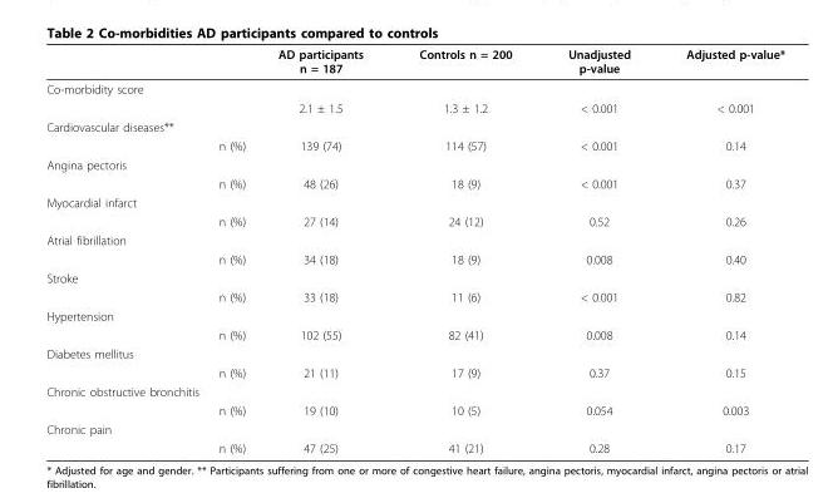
<table><thead><tr><td></td><td>AD participants n = 187</td><td>Controls n = 200</td><td>Unadjusted p-value</td><td>Adjusted p-value*</td></tr></thead><tbody><tr><td colspan="5">Co-morbidity score</td></tr><tr><td></td><td>2.1 ± 1.5</td><td>1.3 ± 1.2</td><td>&lt; 0.001</td><td>&lt; 0.001</td></tr><tr><td colspan="5">Cardiovascular diseases**</td></tr><tr><td>n (%)</td><td>139 (74)</td><td>114 (57)</td><td>&lt; 0.001</td><td>0.14</td></tr><tr><td colspan="5">Angina pectoris</td></tr><tr><td>n (%)</td><td>48 (26)</td><td>18 (9)</td><td>&lt; 0.001</td><td>0.37</td></tr><tr><td colspan="5">Myocardial infarct</td></tr><tr><td>n (%)</td><td>27 (14)</td><td>24 (12)</td><td>0.52</td><td>0.26</td></tr><tr><td colspan="5">Atrial fibrillation</td></tr><tr><td>n (%)</td><td>34 (18)</td><td>18 (9)</td><td>0.008</td><td>0.40</td></tr><tr><td colspan="5">Stroke</td></tr><tr><td>n (%)</td><td>33 (18)</td><td>11 (6)</td><td>&lt; 0.001</td><td>0.82</td></tr><tr><td colspan="5">Hypertension</td></tr><tr><td>n (%)</td><td>102 (55)</td><td>82 (41)</td><td>0.008</td><td>0.14</td></tr><tr><td colspan="5">Diabetes mellitus</td></tr><tr><td>n (%)</td><td>21 (11)</td><td>17 (9)</td><td>0.37</td><td>0.15</td></tr><tr><td colspan="5">Chronic obstructive bronchitis</td></tr><tr><td>n (%)</td><td>19 (10)</td><td>10 (5)</td><td>0.054</td><td>0.003</td></tr><tr><td colspan="5">Chronic pain</td></tr><tr><td>n (%)</td><td>47 (25)</td><td>41 (21)</td><td>0.28</td><td>0.17</td></tr></tbody></table>